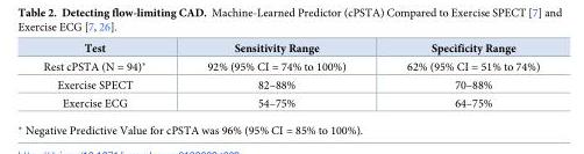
<table><thead><tr><td>Test</td><td>Sensitivity Range</td><td>Specificity Range</td></tr></thead><tbody><tr><td>Rest cPSTA (N = 94)*</td><td>92% (95% CI = 74% to 100%)</td><td>62% (95% CI = 51% to 74%)</td></tr><tr><td>Exercise SPECT</td><td>82–88%</td><td>70–88%</td></tr><tr><td>Exercise ECG</td><td>54–75%</td><td>64–75%</td></tr></tbody></table>